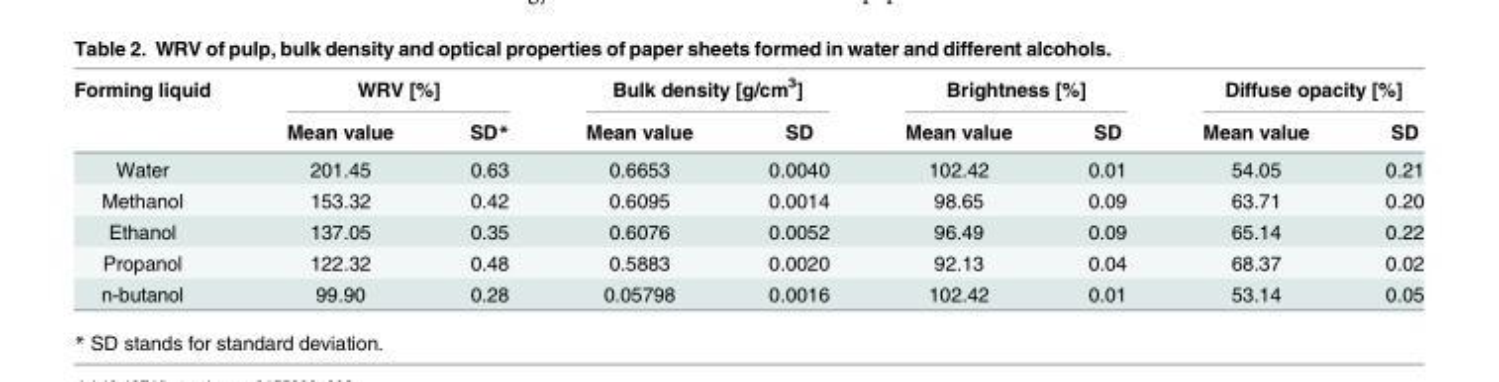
<table><thead><tr><td rowspan="2">Forming liquid</td><td colspan="2">WRV [%]</td><td colspan="2">Bulk density [g/cm<sup>3</sup>]</td><td colspan="2">Brightness [%]</td><td colspan="2">Diffuse opacity [%]</td></tr><tr><td>Mean value</td><td>SD*</td><td>Mean value</td><td>SD</td><td>Mean value</td><td>SD</td><td>Mean value</td><td>SD</td></tr></thead><tbody><tr><td>Water</td><td>201.45</td><td>0.63</td><td>0.6653</td><td>0.0040</td><td>102.42</td><td>0.01</td><td>54.05</td><td>0.21</td></tr><tr><td>Methanol</td><td>153.32</td><td>0.42</td><td>0.6095</td><td>0.0014</td><td>98.65</td><td>0.09</td><td>63.71</td><td>0.20</td></tr><tr><td>Ethanol</td><td>137.05</td><td>0.35</td><td>0.6076</td><td>0.0052</td><td>96.49</td><td>0.09</td><td>65.14</td><td>0.22</td></tr><tr><td>Propanol</td><td>122.32</td><td>0.48</td><td>0.5883</td><td>0.0020</td><td>92.13</td><td>0.04</td><td>68.37</td><td>0.02</td></tr><tr><td>n-butanol</td><td>99.90</td><td>0.28</td><td>0.05798</td><td>0.0016</td><td>102.42</td><td>0.01</td><td>53.14</td><td>0.05</td></tr></tbody></table>